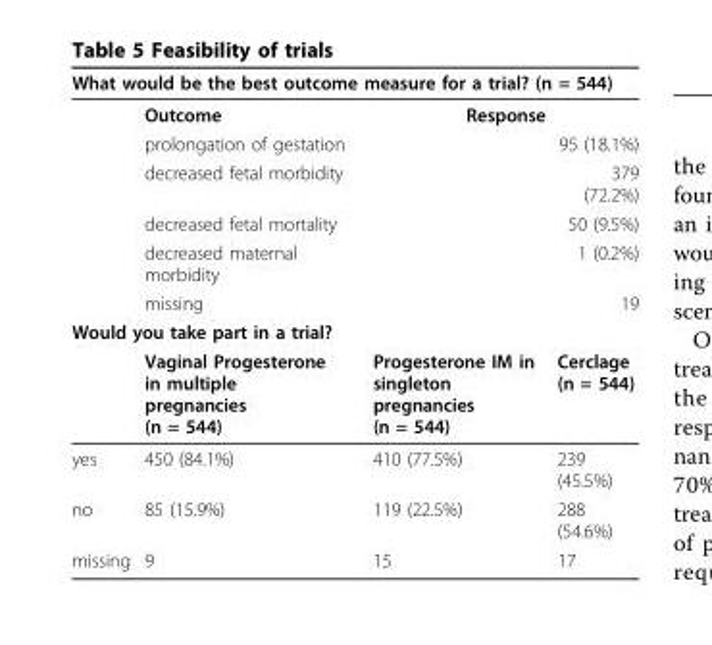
<table><thead><tr><td colspan="4">What would be the best outcome measure for a trial? (n = 544)</td></tr><tr><td rowspan="2"></td><td rowspan="2">Outcome prolongation of gestation</td><td colspan="2">Response</td></tr><tr><td></td><td>95 (18.1%)</td></tr></thead><tbody><tr><td></td><td>decreased fetal morbidity</td><td></td><td>379 (72.2%)</td></tr><tr><td></td><td>decreased fetal mortality</td><td></td><td>50 (9.5%)</td></tr><tr><td></td><td>decreased maternal morbidity</td><td></td><td>1 (0.2%)</td></tr><tr><td></td><td>missing</td><td></td><td>19</td></tr><tr><td colspan="4">Would you take part in a trial?</td></tr><tr><td></td><td>Vaginal Progesterone in multiple pregnancies (n = 544)</td><td>Progesterone IM in singleton pregnancies (n = 544)</td><td>Cerclage (n = 544)</td></tr><tr><td>yes</td><td>450 (84.1%)</td><td>410 (77.5%)</td><td>239 (45.5%)</td></tr><tr><td>no</td><td>85 (15.9%)</td><td>119 (22.5%)</td><td>288 (54.6%)</td></tr><tr><td>missing</td><td>9</td><td>15</td><td>17</td></tr></tbody></table>